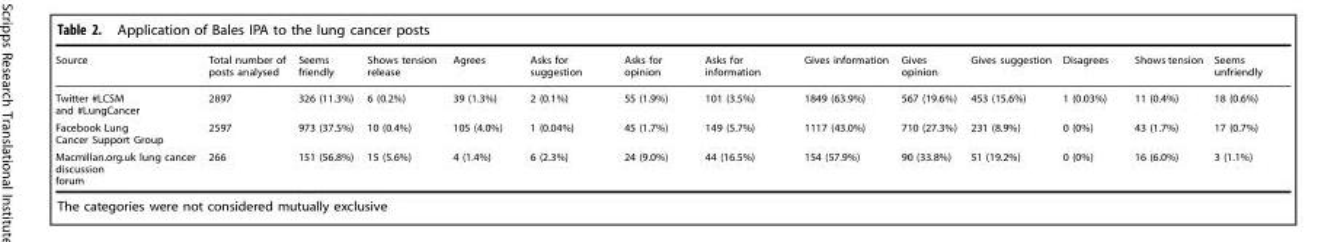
<table><thead><tr><td>Source</td><td>Total number of posts analysed</td><td>Seems friendly</td><td>Shows tension release</td><td>Agrees</td><td>Asks for suggestion</td><td>Asks for opinion</td><td>Asks for information</td><td>Gives information</td><td>Gives opinion</td><td>Gives suggestion</td><td>Disagrees</td><td>Shows tension</td><td>Seems unfriendly</td></tr></thead><tbody><tr><td>Twitter #LCSM and #LungCancer</td><td>2897</td><td>326 (11.3%)</td><td>6 (0.2%)</td><td>39 (1.3%)</td><td>2 (0.1%)</td><td>55 (1.9%)</td><td>101 (3.5%)</td><td>1849 (63.9%)</td><td>567 (19.6%)</td><td>453 (15.6%)</td><td>1 (0.03%)</td><td>11 (0.4%)</td><td>18 (0.6%)</td></tr><tr><td>Facebook Lung Cancer Support Group</td><td>2597</td><td>973 (37.5%)</td><td>10 (0.4%)</td><td>105 (4.0%)</td><td>1 (0.04%)</td><td>45 (1.7%)</td><td>149 (5.7%)</td><td>1117 (43.0%)</td><td>710 (27.3%)</td><td>231 (8.9%)</td><td>0 (0%)</td><td>43 (1.7%)</td><td>17 (0.7%)</td></tr><tr><td>Macmillan.org.uk lung cancer discussion forum</td><td>266</td><td>151 (56.8%)</td><td>15 (5.6%)</td><td>4 (1.4%)</td><td>6 (2.3%)</td><td>24 (9.0%)</td><td>44 (16.5%)</td><td>154 (57.9%)</td><td>90 (33.8%)</td><td>51 (19.2%)</td><td>0 (0%)</td><td>16 (6.0%)</td><td>3 (1.1%)</td></tr></tbody></table>